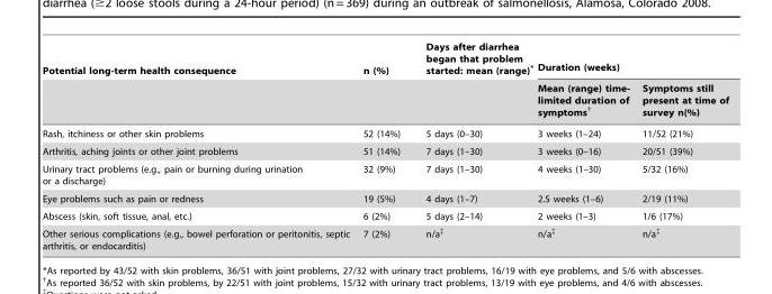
<table><thead><tr><td rowspan="2">Potential long-term health consequence</td><td rowspan="2">n (%)</td><td rowspan="2">Days after diarrhea began that problem started: mean (range)*</td><td colspan="2">Duration (weeks)</td></tr><tr><td>Mean (range) time- limited duration of symptoms†</td><td>Symptoms still present at time of survey n(%)</td></tr></thead><tbody><tr><td>Rash, itchiness or other skin problems</td><td>52 (14%)</td><td>5 days (0–30)</td><td>3 weeks (1–24)</td><td>11/52 (21%)</td></tr><tr><td>Arthritis, aching joints or other joint problems</td><td>51 (14%)</td><td>7 days (1–30)</td><td>3 weeks (0–16)</td><td>20/51 (39%)</td></tr><tr><td>Urinary tract problems (e.g., pain or burning during urination or a discharge)</td><td>32 (9%)</td><td>7 days (1–30)</td><td>4 weeks (1–30)</td><td>5/32 (16%)</td></tr><tr><td>Eye problems such as pain or redness</td><td>19 (5%)</td><td>4 days (1–7)</td><td>2.5 weeks (1–6)</td><td>2/19 (11%)</td></tr><tr><td>Abscess (skin, soft tissue, anal, etc.)</td><td>6 (2%)</td><td>5 days (2–14)</td><td>2 weeks (1–3)</td><td>1/6 (17%)</td></tr><tr><td>Other serious complications (e.g., bowel perforation or peritonitis, septic arthritis, or endocarditis)</td><td>7 (2%)</td><td>n/a‡</td><td>n/a‡</td><td>n/a‡</td></tr></tbody></table>